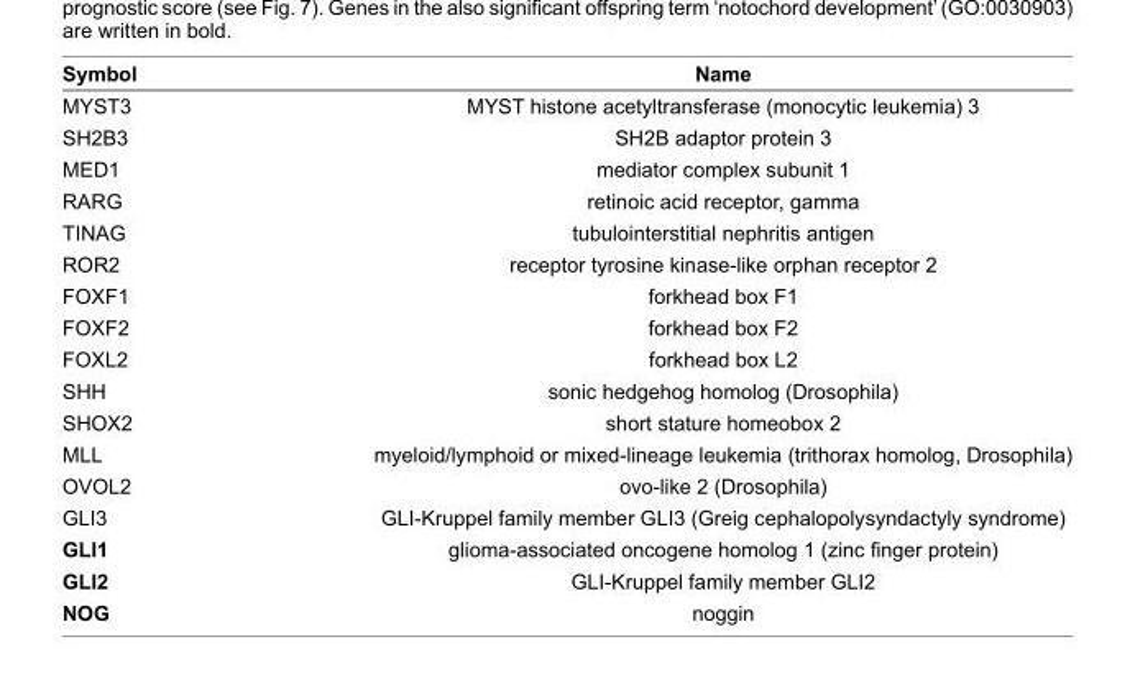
<table><thead><tr><td>Symbol</td><td>Name</td></tr></thead><tbody><tr><td>MYST3</td><td>MYST histone acetyltransferase (monocytic leukemia) 3</td></tr><tr><td>SH2B3</td><td>SH2B adaptor protein 3</td></tr><tr><td>MED1</td><td>mediator complex subunit 1</td></tr><tr><td>RARG</td><td>retinoic acid receptor, gamma</td></tr><tr><td>TINAG</td><td>tubulointerstitial nephritis antigen</td></tr><tr><td>ROR2</td><td>receptor tyrosine kinase-like orphan receptor 2</td></tr><tr><td>FOXF1</td><td>forkhead box F1</td></tr><tr><td>FOXF2</td><td>forkhead box F2</td></tr><tr><td>FOXL2</td><td>forkhead box L2</td></tr><tr><td>SHH</td><td>sonic hedgehog homolog (Drosophila)</td></tr><tr><td>SHOX2</td><td>short stature homeobox 2</td></tr><tr><td>MLL</td><td>myeloid/lymphoid or mixed-lineage leukemia (trithorax homolog, Drosophila)</td></tr><tr><td>OVOL2</td><td>ovo-like 2 (Drosophila)</td></tr><tr><td>GLI3</td><td>GLI-Kruppel family member GLI3 (Greig cephalopolysyndactyly syndrome)</td></tr><tr><td>GLI1</td><td>glioma-associated oncogene homolog 1 (zinc fi nger protein)</td></tr><tr><td>GLI2</td><td>GLI-Kruppel family member GLI2</td></tr><tr><td>NOG</td><td>noggin</td></tr></tbody></table>